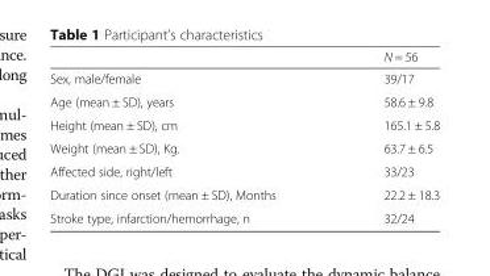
<table><thead><tr><td></td><td>N = 56</td></tr></thead><tbody><tr><td>Sex, male/female</td><td>39/17</td></tr><tr><td>Age (mean ± SD), years</td><td>58.6 ± 9.8</td></tr><tr><td>Height (mean ± SD), cm</td><td>165.1 ± 5.8</td></tr><tr><td>Weight (mean ± SD), Kg.</td><td>63.7 ± 6.5</td></tr><tr><td>Affected side, right/left</td><td>33/23</td></tr><tr><td>Duration since onset (mean ± SD), Months</td><td>22.2 ± 18.3</td></tr><tr><td>Stroke type, infarction/hemorrhage, n</td><td>32/24</td></tr></tbody></table>